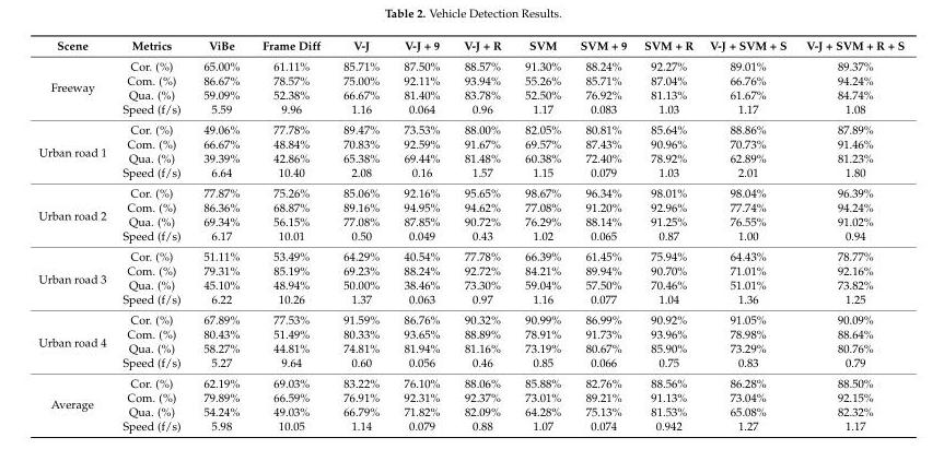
<table><thead><tr><td>Scene</td><td>Metrics</td><td>ViBe</td><td>Frame Diff</td><td>V-J</td><td>V-J + 9</td><td>V-J + R</td><td>SVM</td><td>SVM + 9</td><td>SVM + R</td><td>V-J + SVM + S</td><td>V-J + SVM + R + S</td></tr></thead><tbody><tr><td rowspan="4">Freeway</td><td>Cor. (%)</td><td>65.00%</td><td>61.11%</td><td>85.71%</td><td>87.50%</td><td>88.57%</td><td>91.30%</td><td>88.24%</td><td>92.27%</td><td>89.01%</td><td>89.37%</td></tr><tr><td>Com. (%)</td><td>86.67%</td><td>78.57%</td><td>75.00%</td><td>92.11%</td><td>93.94%</td><td>55.26%</td><td>85.71%</td><td>87.04%</td><td>66.76%</td><td>94.24%</td></tr><tr><td>Qua. (%)</td><td>59.09%</td><td>52.38%</td><td>66.67%</td><td>81.40%</td><td>83.78%</td><td>52.50%</td><td>76.92%</td><td>81.13%</td><td>61.67%</td><td>84.74%</td></tr><tr><td>Speed (f/s)</td><td>5.59</td><td>9.96</td><td>1.16</td><td>0.064</td><td>0.96</td><td>1.17</td><td>0.083</td><td>1.03</td><td>1.17</td><td>1.08</td></tr><tr><td rowspan="4">Urban road 1</td><td>Cor. (%)</td><td>49.06%</td><td>77.78%</td><td>89.47%</td><td>73.53%</td><td>88.00%</td><td>82.05%</td><td>80.81%</td><td>85.64%</td><td>88.86%</td><td>87.89%</td></tr><tr><td>Com. (%)</td><td>66.67%</td><td>48.84%</td><td>70.83%</td><td>92.59%</td><td>91.67%</td><td>69.57%</td><td>87.43%</td><td>90.96%</td><td>70.73%</td><td>91.46%</td></tr><tr><td>Qua. (%)</td><td>39.39%</td><td>42.86%</td><td>65.38%</td><td>69.44%</td><td>81.48%</td><td>60.38%</td><td>72.40%</td><td>78.92%</td><td>62.89%</td><td>81.23%</td></tr><tr><td>Speed (f/s)</td><td>6.64</td><td>10.40</td><td>2.08</td><td>0.16</td><td>1.57</td><td>1.15</td><td>0.079</td><td>1.03</td><td>2.01</td><td>1.80</td></tr><tr><td rowspan="4">Urban road 2</td><td>Cor. (%)</td><td>77.87%</td><td>75.26%</td><td>85.06%</td><td>92.16%</td><td>95.65%</td><td>98.67%</td><td>96.34%</td><td>98.01%</td><td>98.04%</td><td>96.39%</td></tr><tr><td>Com. (%)</td><td>86.36%</td><td>68.87%</td><td>89.16%</td><td>94.95%</td><td>94.62%</td><td>77.08%</td><td>91.20%</td><td>92.96%</td><td>77.74%</td><td>94.24%</td></tr><tr><td>Qua. (%)</td><td>69.34%</td><td>56.15%</td><td>77.08%</td><td>87.85%</td><td>90.72%</td><td>76.29%</td><td>88.14%</td><td>91.25%</td><td>76.55%</td><td>91.02%</td></tr><tr><td>Speed (f/s)</td><td>6.17</td><td>10.01</td><td>0.50</td><td>0.049</td><td>0.43</td><td>1.02</td><td>0.065</td><td>0.87</td><td>1.00</td><td>0.94</td></tr><tr><td rowspan="4">Urban road 3</td><td>Cor. (%)</td><td>51.11%</td><td>53.49%</td><td>64.29%</td><td>40.54%</td><td>77.78%</td><td>66.39%</td><td>61.45%</td><td>75.94%</td><td>64.43%</td><td>78.77%</td></tr><tr><td>Com. (%)</td><td>79.31%</td><td>85.19%</td><td>69.23%</td><td>88.24%</td><td>92.72%</td><td>84.21%</td><td>89.94%</td><td>90.70%</td><td>71.01%</td><td>92.16%</td></tr><tr><td>Qua. (%)</td><td>45.10%</td><td>48.94%</td><td>50.00%</td><td>38.46%</td><td>73.30%</td><td>59.04%</td><td>57.50%</td><td>70.46%</td><td>51.01%</td><td>73.82%</td></tr><tr><td>Speed (f/s)</td><td>6.22</td><td>10.26</td><td>1.37</td><td>0.063</td><td>0.97</td><td>1.16</td><td>0.077</td><td>1.04</td><td>1.36</td><td>1.25</td></tr><tr><td rowspan="4">Urban road 4</td><td>Cor. (%)</td><td>67.89%</td><td>77.53%</td><td>91.59%</td><td>86.76%</td><td>90.32%</td><td>90.99%</td><td>86.99%</td><td>90.92%</td><td>91.05%</td><td>90.09%</td></tr><tr><td>Com. (%)</td><td>80.43%</td><td>51.49%</td><td>80.33%</td><td>93.65%</td><td>88.89%</td><td>78.91%</td><td>91.73%</td><td>93.96%</td><td>78.98%</td><td>88.64%</td></tr><tr><td>Qua. (%)</td><td>58.27%</td><td>44.81%</td><td>74.81%</td><td>81.94%</td><td>81.16%</td><td>73.19%</td><td>80.67%</td><td>85.90%</td><td>73.29%</td><td>80.76%</td></tr><tr><td>Speed (f/s)</td><td>5.27</td><td>9.64</td><td>0.60</td><td>0.056</td><td>0.46</td><td>0.85</td><td>0.066</td><td>0.75</td><td>0.83</td><td>0.79</td></tr><tr><td rowspan="4">Average</td><td>Cor. (%)</td><td>62.19%</td><td>69.03%</td><td>83.22%</td><td>76.10%</td><td>88.06%</td><td>85.88%</td><td>82.76%</td><td>88.56%</td><td>86.28%</td><td>88.50%</td></tr><tr><td>Com. (%)</td><td>79.89%</td><td>66.59%</td><td>76.91%</td><td>92.31%</td><td>92.37%</td><td>73.01%</td><td>89.21%</td><td>91.13%</td><td>73.04%</td><td>92.15%</td></tr><tr><td>Qua. (%)</td><td>54.24%</td><td>49.03%</td><td>66.79%</td><td>71.82%</td><td>82.09%</td><td>64.28%</td><td>75.13%</td><td>81.53%</td><td>65.08%</td><td>82.32%</td></tr><tr><td>Speed (f/s)</td><td>5.98</td><td>10.05</td><td>1.14</td><td>0.079</td><td>0.88</td><td>1.07</td><td>0.074</td><td>0.942</td><td>1.27</td><td>1.17</td></tr></tbody></table>